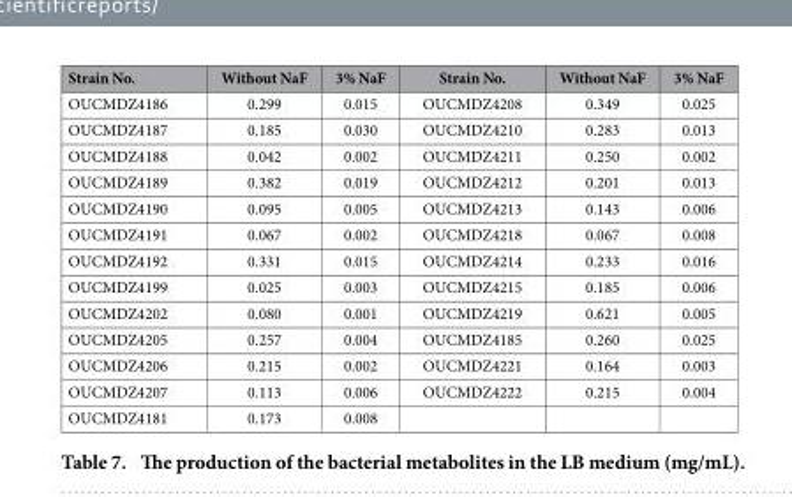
<table><thead><tr><td>Strain No.</td><td>Without NaF</td><td>3% NaF</td><td>Strain No.</td><td>Without NaF</td><td>3% NaF</td></tr></thead><tbody><tr><td>OUCMDZ4186</td><td>0.299</td><td>0.015</td><td>OUCMDZ4208</td><td>0.349</td><td>0.025</td></tr><tr><td>OUCMDZ4187</td><td>0.185</td><td>0.030</td><td>OUCMDZ4210</td><td>0.283</td><td>0.013</td></tr><tr><td>OUCMDZ4188</td><td>0.042</td><td>0.002</td><td>OUCMDZ4211</td><td>0.250</td><td>0.002</td></tr><tr><td>OUCMDZ4189</td><td>0.382</td><td>0.019</td><td>OUCMDZ4212</td><td>0.201</td><td>0.013</td></tr><tr><td>OUCMDZ4190</td><td>0.095</td><td>0.005</td><td>OUCMDZ4213</td><td>0.143</td><td>0.006</td></tr><tr><td>OUCMDZ4191</td><td>0.067</td><td>0.002</td><td>OUCMDZ4218</td><td>0.067</td><td>0.008</td></tr><tr><td>OUCMDZ4192</td><td>0.331</td><td>0.015</td><td>OUCMDZ4214</td><td>0.233</td><td>0.016</td></tr><tr><td>OUCMDZ4199</td><td>0.025</td><td>0.003</td><td>OUCMDZ4215</td><td>0.185</td><td>0.006</td></tr><tr><td>OUCMDZ4202</td><td>0.080</td><td>0.001</td><td>OUCMDZ4219</td><td>0.621</td><td>0.005</td></tr><tr><td>OUCMDZ4205</td><td>0.257</td><td>0.004</td><td>OUCMDZ4185</td><td>0.260</td><td>0.025</td></tr><tr><td>OUCMDZ4206</td><td>0.215</td><td>0.002</td><td>OUCMDZ4221</td><td>0.164</td><td>0.003</td></tr><tr><td>OUCMDZ4207</td><td>0.113</td><td>0.006</td><td>OUCMDZ4222</td><td>0.215</td><td>0.004</td></tr><tr><td>OUCMDZ4181</td><td>0.173</td><td>0.008</td><td></td><td></td><td></td></tr></tbody></table>